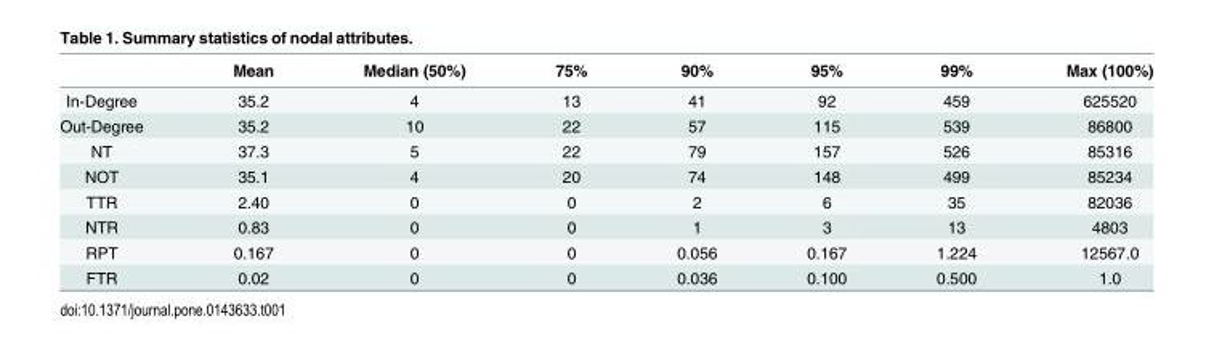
<table><thead><tr><td></td><td>Mean</td><td>Median (50%)</td><td>75%</td><td>90%</td><td>95%</td><td>99%</td><td>Max (100%)</td></tr></thead><tbody><tr><td>In-Degree</td><td>35.2</td><td>4</td><td>13</td><td>41</td><td>92</td><td>459</td><td>625520</td></tr><tr><td>Out-Degree</td><td>35.2</td><td>10</td><td>22</td><td>57</td><td>115</td><td>539</td><td>86800</td></tr><tr><td>NT</td><td>37.3</td><td>5</td><td>22</td><td>79</td><td>157</td><td>526</td><td>85316</td></tr><tr><td>NOT</td><td>35.1</td><td>4</td><td>20</td><td>74</td><td>148</td><td>499</td><td>85234</td></tr><tr><td>TTR</td><td>2.40</td><td>0</td><td>0</td><td>2</td><td>6</td><td>35</td><td>82036</td></tr><tr><td>NTR</td><td>0.83</td><td>0</td><td>0</td><td>1</td><td>3</td><td>13</td><td>4803</td></tr><tr><td>RPT</td><td>0.167</td><td>0</td><td>0</td><td>0.056</td><td>0.167</td><td>1.224</td><td>12567.0</td></tr><tr><td>FTR</td><td>0.02</td><td>0</td><td>0</td><td>0.036</td><td>0.100</td><td>0.500</td><td>1.0</td></tr></tbody></table>